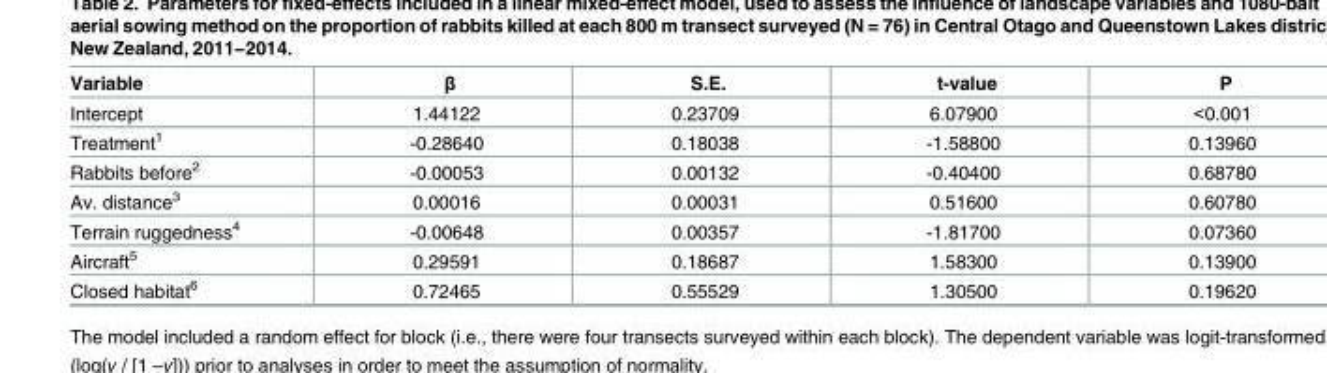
<table><thead><tr><td>Variable</td><td>β</td><td>S.E.</td><td>t-value</td><td>P</td></tr></thead><tbody><tr><td>Intercept</td><td>1.44122</td><td>0.23709</td><td>6.07900</td><td>&lt;0.001</td></tr><tr><td>Treatment<sup>1</sup></td><td>-0.28640</td><td>0.18038</td><td>-1.58800</td><td>0.13960</td></tr><tr><td>Rabbits before<sup>2</sup></td><td>-0.00053</td><td>0.00132</td><td>-0.40400</td><td>0.68780</td></tr><tr><td>Av. distance<sup>3</sup></td><td>0.00016</td><td>0.00031</td><td>0.51600</td><td>0.60780</td></tr><tr><td>Terrain ruggedness<sup>4</sup></td><td>-0.00648</td><td>0.00357</td><td>-1.81700</td><td>0.07360</td></tr><tr><td>Aircraft<sup>5</sup></td><td>0.29591</td><td>0.18687</td><td>1.58300</td><td>0.13900</td></tr><tr><td>Closed habitat<sup>6</sup></td><td>0.72465</td><td>0.55529</td><td>1.30500</td><td>0.19620</td></tr></tbody></table>